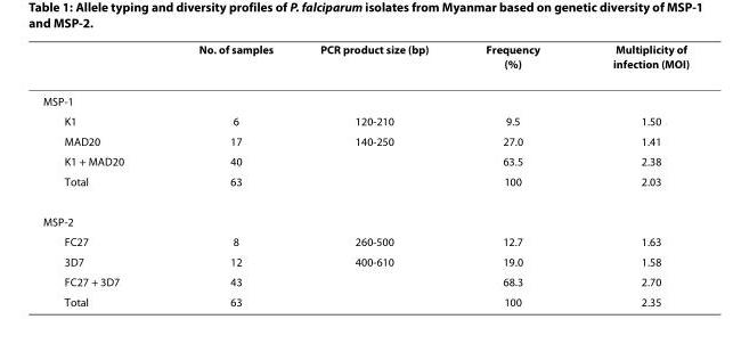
<table><thead><tr><td></td><td>No. of samples</td><td>PCR product size (bp)</td><td>Frequency (%)</td><td>Multiplicity of infection (MOI)</td></tr></thead><tbody><tr><td colspan="5">MSP-1</td></tr><tr><td>K1</td><td>6</td><td>120-210</td><td>9.5</td><td>1.50</td></tr><tr><td>MAD20</td><td>17</td><td>140-250</td><td>27.0</td><td>1.41</td></tr><tr><td>K1 + MAD20</td><td>40</td><td></td><td>63.5</td><td>2.38</td></tr><tr><td>Total</td><td>63</td><td></td><td>100</td><td>2.03</td></tr><tr><td colspan="5">MSP-2</td></tr><tr><td>FC27</td><td>8</td><td>260-500</td><td>12.7</td><td>1.63</td></tr><tr><td>3D7</td><td>12</td><td>400-610</td><td>19.0</td><td>1.58</td></tr><tr><td>FC27 + 3D7</td><td>43</td><td></td><td>68.3</td><td>2.70</td></tr><tr><td>Total</td><td>63</td><td></td><td>100</td><td>2.35</td></tr></tbody></table>